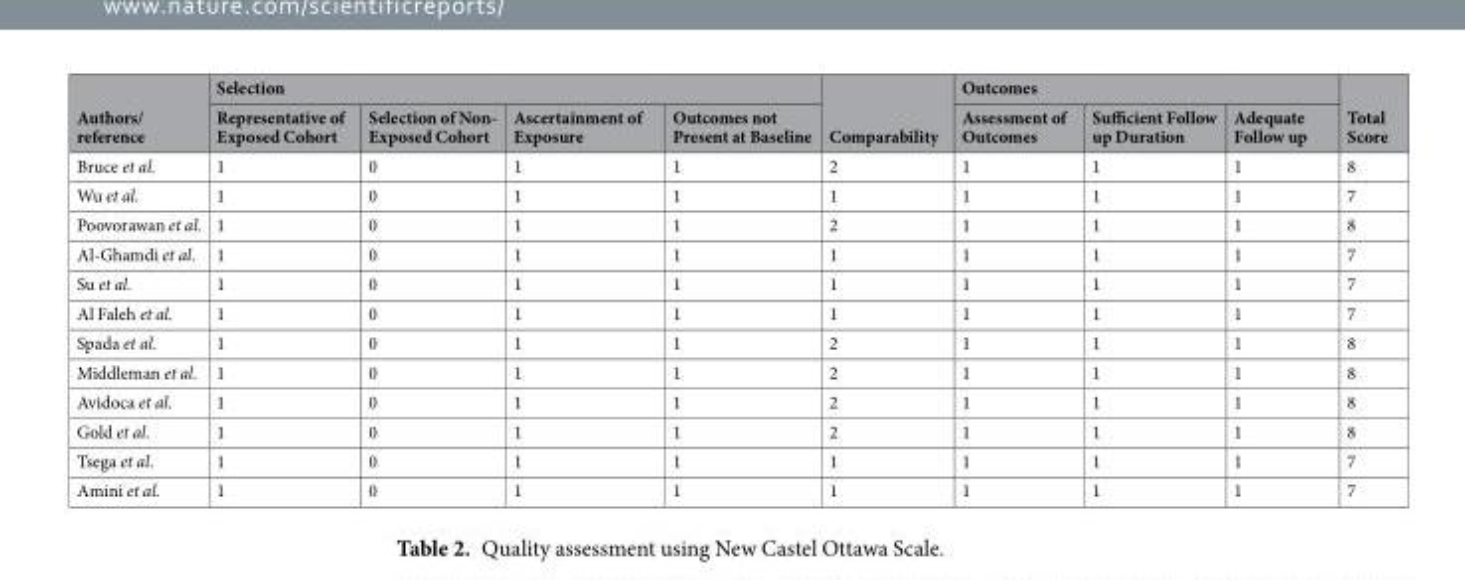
<table><thead><tr><td rowspan="2">Authors/ reference</td><td colspan="4">Selection</td><td rowspan="2">Comparability</td><td colspan="3">Outcomes</td><td rowspan="2">Total Score</td></tr><tr><td>Representative of Exposed Cohort</td><td>Selection of Non- Exposed Cohort</td><td>Ascertainment of Exposure</td><td>Outcomes not Present at Baseline</td><td>Assessment of Outcomes</td><td>Sufficient Follow up Duration</td><td>Adequate Follow up</td></tr></thead><tbody><tr><td>Bruce et al.</td><td>1</td><td>0</td><td>1</td><td>1</td><td>2</td><td>1</td><td>1</td><td>1</td><td>8</td></tr><tr><td>Wu et al.</td><td>1</td><td>0</td><td>1</td><td>1</td><td>1</td><td>1</td><td>1</td><td>1</td><td>7</td></tr><tr><td>Poovorawan et al.</td><td>1</td><td>0</td><td>1</td><td>1</td><td>2</td><td>1</td><td>1</td><td>1</td><td>8</td></tr><tr><td>Al-Ghamdi et al.</td><td>1</td><td>0</td><td>1</td><td>1</td><td>1</td><td>1</td><td>1</td><td>1</td><td>7</td></tr><tr><td>Su et al.</td><td>1</td><td>0</td><td>1</td><td>1</td><td>1</td><td>1</td><td>1</td><td>1</td><td>7</td></tr><tr><td>Al Faleh et al.</td><td>1</td><td>0</td><td>1</td><td>1</td><td>1</td><td>1</td><td>1</td><td>1</td><td>7</td></tr><tr><td>Spada et al.</td><td>1</td><td>0</td><td>1</td><td>1</td><td>2</td><td>1</td><td>1</td><td>1</td><td>8</td></tr><tr><td>Middleman et al.</td><td>1</td><td>0</td><td>1</td><td>1</td><td>2</td><td>1</td><td>1</td><td>1</td><td>8</td></tr><tr><td>Avidoca et al.</td><td>1</td><td>0</td><td>1</td><td>1</td><td>2</td><td>1</td><td>1</td><td>1</td><td>8</td></tr><tr><td>Gold et al.</td><td>1</td><td>0</td><td>1</td><td>1</td><td>2</td><td>1</td><td>1</td><td>1</td><td>8</td></tr><tr><td>Tsega et al.</td><td>1</td><td>0</td><td>1</td><td>1</td><td>1</td><td>1</td><td>1</td><td>1</td><td>7</td></tr><tr><td>Amini et al.</td><td>1</td><td>0</td><td>1</td><td>1</td><td>1</td><td>1</td><td>1</td><td>1</td><td>7</td></tr></tbody></table>